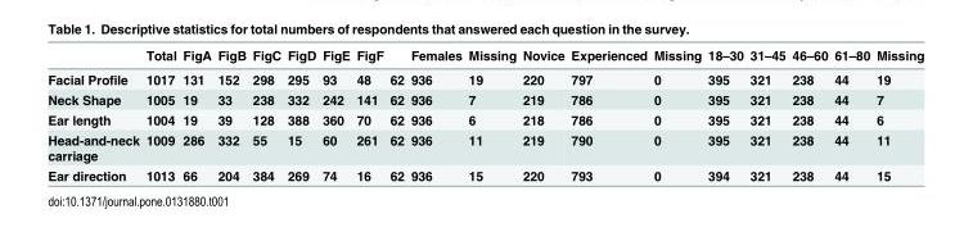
<table><thead><tr><td></td><td>Total</td><td>FigA</td><td>FigB</td><td>FigC</td><td>FigD</td><td>FigE</td><td>FigF</td><td></td><td>Females</td><td>Missing</td><td>Novice</td><td>Experienced</td><td>Missing</td><td>18–30</td><td>31–45</td><td>46–60</td><td>61–80</td><td>Missing</td></tr></thead><tbody><tr><td>Facial Profile</td><td>1017</td><td>131</td><td>152</td><td>298</td><td>295</td><td>93</td><td>48</td><td>62</td><td>936</td><td>19</td><td>220</td><td>797</td><td>0</td><td>395</td><td>321</td><td>238</td><td>44</td><td>19</td></tr><tr><td>Neck Shape</td><td>1005</td><td>19</td><td>33</td><td>238</td><td>332</td><td>242</td><td>141</td><td>62</td><td>936</td><td>7</td><td>219</td><td>786</td><td>0</td><td>395</td><td>321</td><td>238</td><td>44</td><td>7</td></tr><tr><td>Ear length</td><td>1004</td><td>19</td><td>39</td><td>128</td><td>388</td><td>360</td><td>70</td><td>62</td><td>936</td><td>6</td><td>218</td><td>786</td><td>0</td><td>395</td><td>321</td><td>238</td><td>44</td><td>6</td></tr><tr><td>Head-and-neck carriage</td><td>1009</td><td>286</td><td>332</td><td>55</td><td>15</td><td>60</td><td>261</td><td>62</td><td>936</td><td>11</td><td>219</td><td>790</td><td>0</td><td>395</td><td>321</td><td>238</td><td>44</td><td>11</td></tr><tr><td>Ear direction</td><td>1013</td><td>66</td><td>204</td><td>384</td><td>269</td><td>74</td><td>16</td><td>62</td><td>936</td><td>15</td><td>220</td><td>793</td><td>0</td><td>394</td><td>321</td><td>238</td><td>44</td><td>15</td></tr></tbody></table>